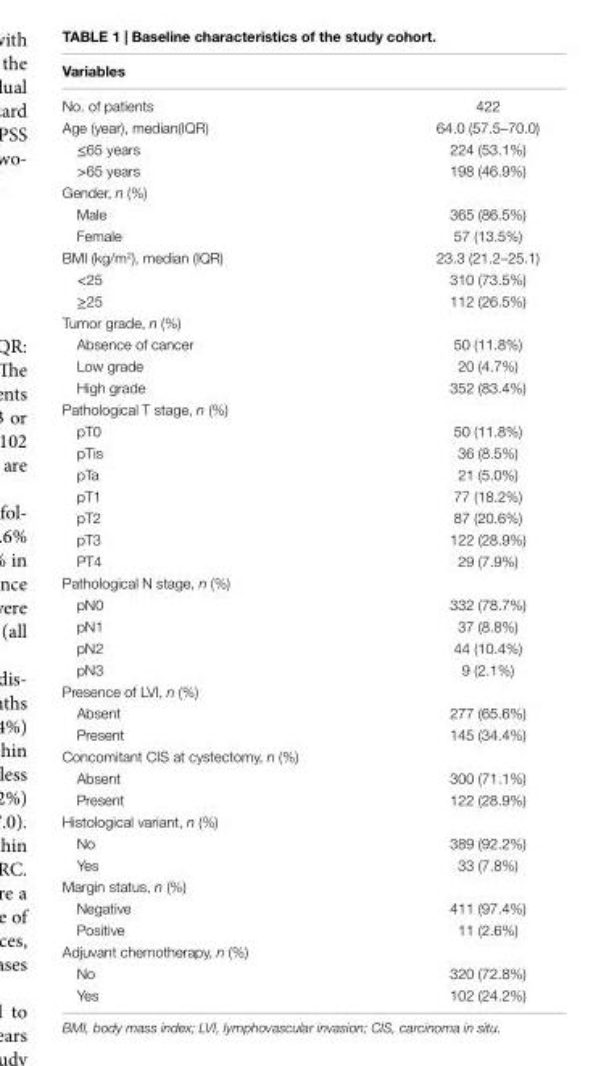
<table><thead><tr><td>Variables</td><td></td></tr></thead><tbody><tr><td>No. of patients</td><td>422</td></tr><tr><td>Age (year), median(IQR)</td><td>64.0 (57.5–70.0)</td></tr><tr><td>≤65 years</td><td>224 (53.1%)</td></tr><tr><td>&gt;65 years</td><td>198 (46.9%)</td></tr><tr><td colspan="2">Gender, n (%)</td></tr><tr><td>Male</td><td>365 (86.5%)</td></tr><tr><td>Female</td><td>57 (13.5%)</td></tr><tr><td>BMI (kg/m<sup>2</sup>), median (IQR)</td><td>23.3 (21.2–25.1)</td></tr><tr><td>&lt;25</td><td>310 (73.5%)</td></tr><tr><td>≥25</td><td>112 (26.5%)</td></tr><tr><td colspan="2">Tumor grade, n (%)</td></tr><tr><td>Absence of cancer</td><td>50 (11.8%)</td></tr><tr><td>Low grade</td><td>20 (4.7%)</td></tr><tr><td>High grade</td><td>352 (83.4%)</td></tr><tr><td colspan="2">Pathological T stage, n (%)</td></tr><tr><td>pT0</td><td>50 (11.8%)</td></tr><tr><td>pTis</td><td>36 (8.5%)</td></tr><tr><td>pTa</td><td>21 (5.0%)</td></tr><tr><td>pT1</td><td>77 (18.2%)</td></tr><tr><td>pT2</td><td>87 (20.6%)</td></tr><tr><td>pT3</td><td>122 (28.9%)</td></tr><tr><td>PT4</td><td>29 (7.9%)</td></tr><tr><td colspan="2">Pathological N stage, n (%)</td></tr><tr><td>pN0</td><td>332 (78.7%)</td></tr><tr><td>pN1</td><td>37 (8.8%)</td></tr><tr><td>pN2</td><td>44 (10.4%)</td></tr><tr><td>pN3</td><td>9 (2.1%)</td></tr><tr><td colspan="2">Presence of LVI, n (%)</td></tr><tr><td>Absent</td><td>277 (65.6%)</td></tr><tr><td>Present</td><td>145 (34.4%)</td></tr><tr><td colspan="2">Concomitant CIS at cystectomy, n (%)</td></tr><tr><td>Absent</td><td>300 (71.1%)</td></tr><tr><td>Present</td><td>122 (28.9%)</td></tr><tr><td colspan="2">Histological variant, n (%)</td></tr><tr><td>No</td><td>389 (92.2%)</td></tr><tr><td>Yes</td><td>33 (7.8%)</td></tr><tr><td colspan="2">Margin status, n (%)</td></tr><tr><td>Negative</td><td>411 (97.4%)</td></tr><tr><td>Positive</td><td>11 (2.6%)</td></tr><tr><td colspan="2">Adjuvant chemotherapy, n (%)</td></tr><tr><td>No</td><td>320 (72.8%)</td></tr><tr><td>Yes</td><td>102 (24.2%)</td></tr></tbody></table>